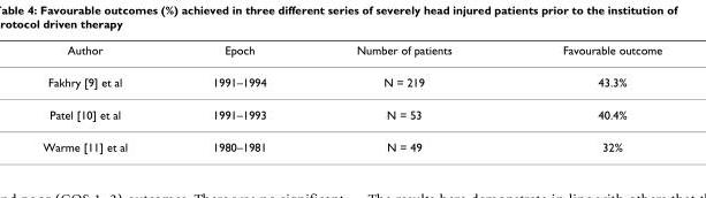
<table><thead><tr><td>Author</td><td>Epoch</td><td>Number of patients</td><td>Favourable outcome</td></tr></thead><tbody><tr><td>Fakhry [9] et al</td><td>1991–1994</td><td>N = 219</td><td>43.3%</td></tr><tr><td>Patel [10] et al</td><td>1991–1993</td><td>N = 53</td><td>40.4%</td></tr><tr><td>Warme [11] et al</td><td>1980–1981</td><td>N = 49</td><td>32%</td></tr></tbody></table>